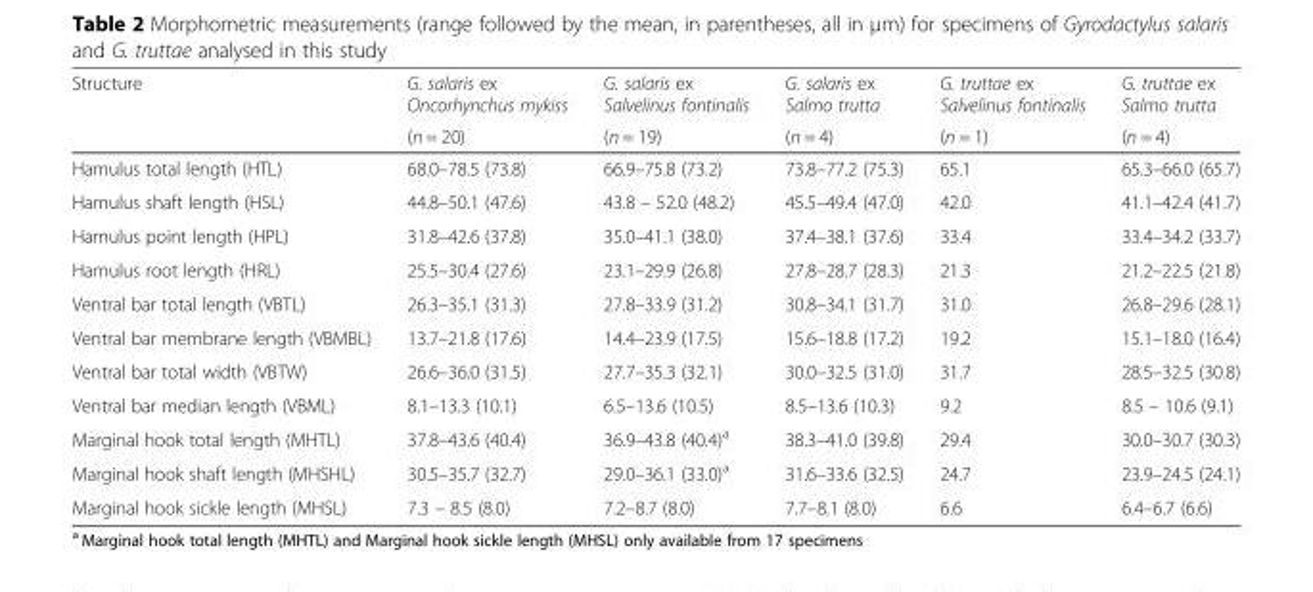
<table><thead><tr><td rowspan="2">Structure</td><td rowspan="2">G. salaris ex Oncorhynchus mykiss (n = 20)</td><td rowspan="2">G. salaris ex Salvelinus fontinalis (n = 19)</td><td rowspan="2">G. salaris ex Salmo trutta (n = 4)</td><td rowspan="2">G. truttae ex Salvelinus fontinalis (n = 1)</td><td rowspan="2">G. truttae ex Salmo trutta (n = 4)</td></tr><tr></tr></thead><tbody><tr><td>Hamulus total length (HTL)</td><td>68.0–78.5 (73.8)</td><td>66.9–75.8 (73.2)</td><td>73.8–77.2 (75.3)</td><td>65.1</td><td>65.3–66.0 (65.7)</td></tr><tr><td>Hamulus shaft length (HSL)</td><td>44.8–50.1 (47.6)</td><td>43.8 – 52.0 (48.2)</td><td>45.5–49.4 (47.0)</td><td>42.0</td><td>41.1–42.4 (41.7)</td></tr><tr><td>Hamulus point length (HPL)</td><td>31.8–42.6 (37.8)</td><td>35.0–41.1 (38.0)</td><td>37.4–38.1 (37.6)</td><td>33.4</td><td>33.4–34.2 (33.7)</td></tr><tr><td>Hamulus root length (HRL)</td><td>25.5–30.4 (27.6)</td><td>23.1–29.9 (26.8)</td><td>27.8–28.7 (28.3)</td><td>21.3</td><td>21.2–22.5 (21.8)</td></tr><tr><td>Ventral bar total length (VBTL)</td><td>26.3–35.1 (31.3)</td><td>27.8–33.9 (31.2)</td><td>30.8–34.1 (31.7)</td><td>31.0</td><td>26.8–29.6 (28.1)</td></tr><tr><td>Ventral bar membrane length (VBMBL)</td><td>13.7–21.8 (17.6)</td><td>14.4–23.9 (17.5)</td><td>15.6–18.8 (17.2)</td><td>19.2</td><td>15.1–18.0 (16.4)</td></tr><tr><td>Ventral bar total width (VBTW)</td><td>26.6–36.0 (31.5)</td><td>27.7–35.3 (32.1)</td><td>30.0–32.5 (31.0)</td><td>31.7</td><td>28.5–32.5 (30.8)</td></tr><tr><td>Ventral bar median length (VBML)</td><td>8.1–13.3 (10.1)</td><td>6.5–13.6 (10.5)</td><td>8.5–13.6 (10.3)</td><td>9.2</td><td>8.5 – 10.6 (9.1)</td></tr><tr><td>Marginal hook total length (MHTL)</td><td>37.8–43.6 (40.4)</td><td>36.9–43.8 (40.4)<sup>a</sup></td><td>38.3–41.0 (39.8)</td><td>29.4</td><td>30.0–30.7 (30.3)</td></tr><tr><td>Marginal hook shaft length (MHSHL)</td><td>30.5–35.7 (32.7)</td><td>29.0–36.1 (33.0)<sup>a</sup></td><td>31.6–33.6 (32.5)</td><td>24.7</td><td>23.9–24.5 (24.1)</td></tr><tr><td>Marginal hook sickle length (MHSL)</td><td>7.3 – 8.5 (8.0)</td><td>7.2–8.7 (8.0)</td><td>7.7–8.1 (8.0)</td><td>6.6</td><td>6.4–6.7 (6.6)</td></tr></tbody></table>